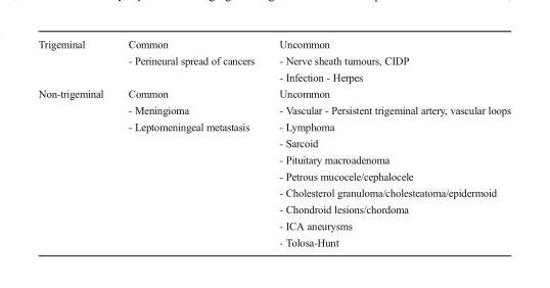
<table><tbody><tr><td>Trigeminal</td><td>Common - Perineural spread of cancers</td><td>Uncommon - Nerve sheath tumours, CIDP - Infection - Herpes</td></tr><tr><td>Non-trigeminal</td><td>Common - Meningioma - Leptomeningeal metastasis</td><td>Uncommon - Vascular - Persistent trigeminal artery, vascular loops - Lymphoma - Sarcoid - Pituitary macroadenoma - Petrous mucocele/cephalocele - Cholesterol granuloma/cholesteatoma/epidermoid - Chondroid lesions/chordoma - ICA aneurysms - Tolosa-Hunt</td></tr></tbody></table>